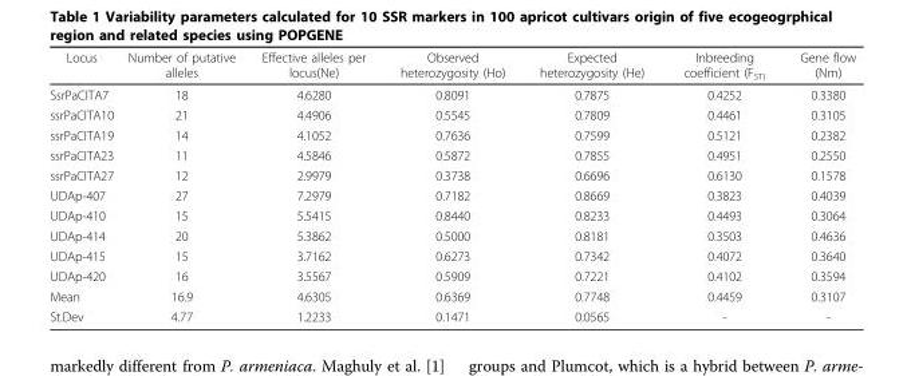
<table><thead><tr><td>Locus</td><td>Number of putative alleles</td><td>Effective alleles per locus(Ne)</td><td>Observed heterozygosity (Ho)</td><td>Expected heterozygosity (He)</td><td>Inbreeding coefficient (F<sub>ST)</sub></td><td>Gene flow (Nm)</td></tr></thead><tbody><tr><td>SsrPaCITA7</td><td>18</td><td>4.6280</td><td>0.8091</td><td>0.7875</td><td>0.4252</td><td>0.3380</td></tr><tr><td>ssrPaCITA10</td><td>21</td><td>4.4906</td><td>0.5545</td><td>0.7809</td><td>0.4461</td><td>0.3105</td></tr><tr><td>ssrPaCITA19</td><td>14</td><td>4.1052</td><td>0.7636</td><td>0.7599</td><td>0.5121</td><td>0.2382</td></tr><tr><td>ssrPaCITA23</td><td>11</td><td>4.5846</td><td>0.5872</td><td>0.7855</td><td>0.4951</td><td>0.2550</td></tr><tr><td>ssrPaCITA27</td><td>12</td><td>2.9979</td><td>0.3738</td><td>0.6696</td><td>0.6130</td><td>0.1578</td></tr><tr><td>UDAp-407</td><td>27</td><td>7.2979</td><td>0.7182</td><td>0.8669</td><td>0.3823</td><td>0.4039</td></tr><tr><td>UDAp-410</td><td>15</td><td>5.5415</td><td>0.8440</td><td>0.8233</td><td>0.4493</td><td>0.3064</td></tr><tr><td>UDAp-414</td><td>20</td><td>5.3862</td><td>0.5000</td><td>0.8181</td><td>0.3503</td><td>0.4636</td></tr><tr><td>UDAp-415</td><td>15</td><td>3.7162</td><td>0.6273</td><td>0.7342</td><td>0.4072</td><td>0.3640</td></tr><tr><td>UDAp-420</td><td>16</td><td>3.5567</td><td>0.5909</td><td>0.7221</td><td>0.4102</td><td>0.3594</td></tr><tr><td>Mean</td><td>16.9</td><td>4.6305</td><td>0.6369</td><td>0.7748</td><td>0.4459</td><td>0.3107</td></tr><tr><td>St.Dev</td><td>4.77</td><td>1.2233</td><td>0.1471</td><td>0.0565</td><td>-</td><td>-</td></tr></tbody></table>